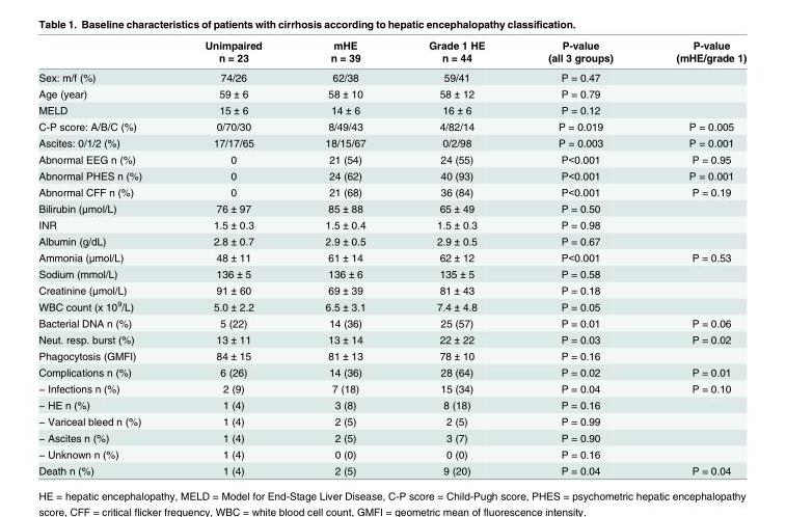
<table><thead><tr><td rowspan="2"></td><td rowspan="2">Unimpaired n = 23</td><td rowspan="2">mHE n = 39</td><td rowspan="2">Grade 1 HE n = 44</td><td rowspan="2">P-value (all 3 groups)</td><td rowspan="2">P-value (mHE/grade 1)</td></tr><tr></tr></thead><tbody><tr><td>Sex: m/f (%)</td><td>74/26</td><td>62/38</td><td>59/41</td><td>P = 0.47</td><td></td></tr><tr><td>Age (year)</td><td>59 ± 6</td><td>58 ± 10</td><td>58 ± 12</td><td>P = 0.79</td><td></td></tr><tr><td>MELD</td><td>15 ± 6</td><td>14 ± 6</td><td>16 ± 6</td><td>P = 0.12</td><td></td></tr><tr><td>C-P score: A/B/C (%)</td><td>0/70/30</td><td>8/49/43</td><td>4/82/14</td><td>P = 0.019</td><td>P = 0.005</td></tr><tr><td>Ascites: 0/1/2 (%)</td><td>17/17/65</td><td>18/15/67</td><td>0/2/98</td><td>P = 0.003</td><td>P = 0.001</td></tr><tr><td>Abnormal EEG n (%)</td><td>0</td><td>21 (54)</td><td>24 (55)</td><td>P&lt;0.001</td><td>P = 0.95</td></tr><tr><td>Abnormal PHES n (%)</td><td>0</td><td>24 (62)</td><td>40 (93)</td><td>P&lt;0.001</td><td>P = 0.001</td></tr><tr><td>Abnormal CFF n (%)</td><td>0</td><td>21 (68)</td><td>36 (84)</td><td>P&lt;0.001</td><td>P = 0.19</td></tr><tr><td>Bilirubin (μmol/L)</td><td>76 ± 97</td><td>85 ± 88</td><td>65 ± 49</td><td>P = 0.50</td><td></td></tr><tr><td>INR</td><td>1.5 ± 0.3</td><td>1.5 ± 0.4</td><td>1.5 ± 0.3</td><td>P = 0.98</td><td></td></tr><tr><td>Albumin (g/dL)</td><td>2.8 ± 0.7</td><td>2.9 ± 0.5</td><td>2.9 ± 0.5</td><td>P = 0.67</td><td></td></tr><tr><td>Ammonia (μmol/L)</td><td>48 ± 11</td><td>61 ± 14</td><td>62 ± 12</td><td>P&lt;0.001</td><td>P = 0.53</td></tr><tr><td>Sodium (mmol/L)</td><td>136 ± 5</td><td>136 ± 6</td><td>135 ± 5</td><td>P = 0.58</td><td></td></tr><tr><td>Creatinine (μmol/L)</td><td>91 ± 60</td><td>69 ± 39</td><td>81 ± 43</td><td>P = 0.18</td><td></td></tr><tr><td>WBC count (x 10<sup>9</sup>/L)</td><td>5.0 ± 2.2</td><td>6.5 ± 3.1</td><td>7.4 ± 4.8</td><td>P = 0.05</td><td></td></tr><tr><td>Bacterial DNA n (%)</td><td>5 (22)</td><td>14 (36)</td><td>25 (57)</td><td>P = 0.01</td><td>P = 0.06</td></tr><tr><td>Neut. resp. burst (%)</td><td>13 ± 11</td><td>13 ± 14</td><td>22 ± 22</td><td>P = 0.03</td><td>P = 0.02</td></tr><tr><td>Phagocytosis (GMFI)</td><td>84 ± 15</td><td>81 ± 13</td><td>78 ± 10</td><td>P = 0.16</td><td></td></tr><tr><td>Complications n (%)</td><td>6 (26)</td><td>14 (36)</td><td>28 (64)</td><td>P = 0.02</td><td>P = 0.01</td></tr><tr><td>− Infections n (%)</td><td>2 (9)</td><td>7 (18)</td><td>15 (34)</td><td>P = 0.04</td><td>P = 0.10</td></tr><tr><td>− HE n (%)</td><td>1 (4)</td><td>3 (8)</td><td>8 (18)</td><td>P = 0.16</td><td></td></tr><tr><td>− Variceal bleed n (%)</td><td>1 (4)</td><td>2 (5)</td><td>2 (5)</td><td>P = 0.99</td><td></td></tr><tr><td>− Ascites n (%)</td><td>1 (4)</td><td>2 (5)</td><td>3 (7)</td><td>P = 0.90</td><td></td></tr><tr><td>− Unknown n (%)</td><td>1 (4)</td><td>0 (0)</td><td>0 (0)</td><td>P = 0.16</td><td></td></tr><tr><td>Death n (%)</td><td>1 (4)</td><td>2 (5)</td><td>9 (20)</td><td>P = 0.04</td><td>P = 0.04</td></tr></tbody></table>